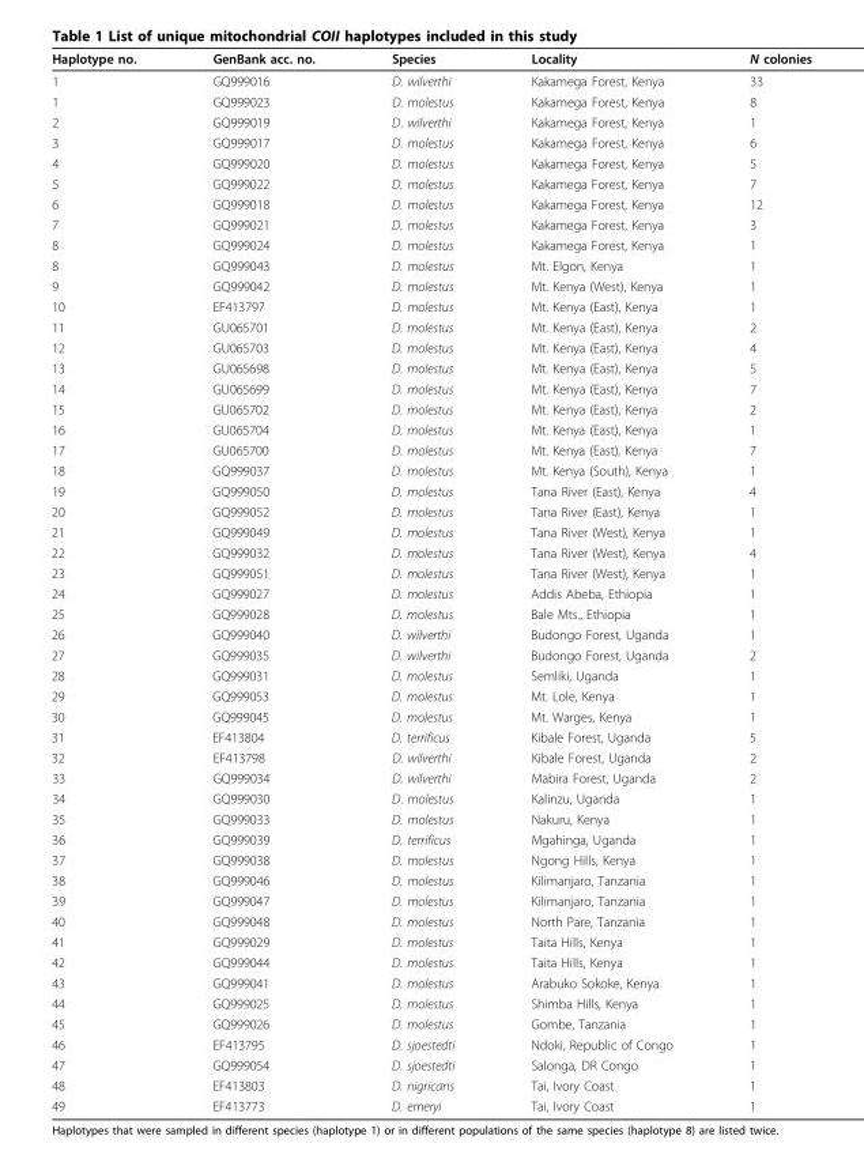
<table><thead><tr><td>Haplotype no.</td><td>GenBank acc. no.</td><td>Species</td><td>Locality</td><td>N colonies</td></tr></thead><tbody><tr><td>1</td><td>GQ999016</td><td>D. wilverthi</td><td>Kakamega Forest, Kenya</td><td>33</td></tr><tr><td>1</td><td>GQ999023</td><td>D. molestus</td><td>Kakamega Forest, Kenya</td><td>8</td></tr><tr><td>2</td><td>GQ999019</td><td>D. wilverthi</td><td>Kakamega Forest, Kenya</td><td>1</td></tr><tr><td>3</td><td>GQ999017</td><td>D. molestus</td><td>Kakamega Forest, Kenya</td><td>6</td></tr><tr><td>4</td><td>GQ999020</td><td>D. molestus</td><td>Kakamega Forest, Kenya</td><td>5</td></tr><tr><td>5</td><td>GQ999022</td><td>D. molestus</td><td>Kakamega Forest, Kenya</td><td>7</td></tr><tr><td>6</td><td>GQ999018</td><td>D. molestus</td><td>Kakamega Forest, Kenya</td><td>12</td></tr><tr><td>7</td><td>GQ999021</td><td>D. molestus</td><td>Kakamega Forest, Kenya</td><td>3</td></tr><tr><td>8</td><td>GQ999024</td><td>D. molestus</td><td>Kakamega Forest, Kenya</td><td>1</td></tr><tr><td>8</td><td>GQ999043</td><td>D. molestus</td><td>Mt. Elgon, Kenya</td><td>1</td></tr><tr><td>9</td><td>GQ999042</td><td>D. molestus</td><td>Mt. Kenya (West), Kenya</td><td>1</td></tr><tr><td>10</td><td>EF413797</td><td>D. molestus</td><td>Mt. Kenya (East), Kenya</td><td>1</td></tr><tr><td>11</td><td>GU065701</td><td>D. molestus</td><td>Mt. Kenya (East), Kenya</td><td>2</td></tr><tr><td>12</td><td>GU065703</td><td>D. molestus</td><td>Mt. Kenya (East), Kenya</td><td>4</td></tr><tr><td>13</td><td>GU065698</td><td>D. molestus</td><td>Mt. Kenya (East), Kenya</td><td>5</td></tr><tr><td>14</td><td>GU065699</td><td>D. molestus</td><td>Mt. Kenya (East), Kenya</td><td>7</td></tr><tr><td>15</td><td>GU065702</td><td>D. molestus</td><td>Mt. Kenya (East), Kenya</td><td>2</td></tr><tr><td>16</td><td>GU065704</td><td>D. molestus</td><td>Mt. Kenya (East), Kenya</td><td>1</td></tr><tr><td>17</td><td>GU065700</td><td>D. molestus</td><td>Mt. Kenya (East), Kenya</td><td>7</td></tr><tr><td>18</td><td>GQ999037</td><td>D. molestus</td><td>Mt. Kenya (South), Kenya</td><td>1</td></tr><tr><td>19</td><td>GQ999050</td><td>D. molestus</td><td>Tana River (East), Kenya</td><td>4</td></tr><tr><td>20</td><td>GQ999052</td><td>D. molestus</td><td>Tana River (East), Kenya</td><td>1</td></tr><tr><td>21</td><td>GQ999049</td><td>D. molestus</td><td>Tana River (West), Kenya</td><td>1</td></tr><tr><td>22</td><td>GQ999032</td><td>D. molestus</td><td>Tana River (West), Kenya</td><td>4</td></tr><tr><td>23</td><td>GQ999051</td><td>D. molestus</td><td>Tana River (West), Kenya</td><td>1</td></tr><tr><td>24</td><td>GQ999027</td><td>D. molestus</td><td>Addis Abeba, Ethiopia</td><td>1</td></tr><tr><td>25</td><td>GQ999028</td><td>D. molestus</td><td>Bale Mts., Ethiopia</td><td>1</td></tr><tr><td>26</td><td>GQ999040</td><td>D. wilverthi</td><td>Budongo Forest, Uganda</td><td>1</td></tr><tr><td>27</td><td>GQ999035</td><td>D. wilverthi</td><td>Budongo Forest, Uganda</td><td>2</td></tr><tr><td>28</td><td>GQ999031</td><td>D. molestus</td><td>Semliki, Uganda</td><td>1</td></tr><tr><td>29</td><td>GQ999053</td><td>D. molestus</td><td>Mt. Lole, Kenya</td><td>1</td></tr><tr><td>30</td><td>GQ999045</td><td>D. molestus</td><td>Mt. Warges, Kenya</td><td>1</td></tr><tr><td>31</td><td>EF413804</td><td>D. terrificus</td><td>Kibale Forest, Uganda</td><td>5</td></tr><tr><td>32</td><td>EF413798</td><td>D. wilverthi</td><td>Kibale Forest, Uganda</td><td>2</td></tr><tr><td>33</td><td>GQ999034</td><td>D. wilverthi</td><td>Mabira Forest, Uganda</td><td>2</td></tr><tr><td>34</td><td>GQ999030</td><td>D. molestus</td><td>Kalinzu, Uganda</td><td>1</td></tr><tr><td>35</td><td>GQ999033</td><td>D. molestus</td><td>Nakuru, Kenya</td><td>1</td></tr><tr><td>36</td><td>GQ999039</td><td>D. terrificus</td><td>Mgahinga, Uganda</td><td>1</td></tr><tr><td>37</td><td>GQ999038</td><td>D. molestus</td><td>Ngong Hills, Kenya</td><td>1</td></tr><tr><td>38</td><td>GQ999046</td><td>D. molestus</td><td>Kilimanjaro, Tanzania</td><td>1</td></tr><tr><td>39</td><td>GQ999047</td><td>D. molestus</td><td>Kilimanjaro, Tanzania</td><td>1</td></tr><tr><td>40</td><td>GQ999048</td><td>D. molestus</td><td>North Pare, Tanzania</td><td>1</td></tr><tr><td>41</td><td>GQ999029</td><td>D. molestus</td><td>Taita Hills, Kenya</td><td>1</td></tr><tr><td>42</td><td>GQ999044</td><td>D. molestus</td><td>Taita Hills, Kenya</td><td>1</td></tr><tr><td>43</td><td>GQ999041</td><td>D. molestus</td><td>Arabuko Sokoke, Kenya</td><td>1</td></tr><tr><td>44</td><td>GQ999025</td><td>D. molestus</td><td>Shimba Hills, Kenya</td><td>1</td></tr><tr><td>45</td><td>GQ999026</td><td>D. molestus</td><td>Gombe, Tanzania</td><td>1</td></tr><tr><td>46</td><td>EF413795</td><td>D. sjoestedti</td><td>Ndoki, Republic of Congo</td><td>1</td></tr><tr><td>47</td><td>GQ999054</td><td>D. sjoestedti</td><td>Salonga, DR Congo</td><td>1</td></tr><tr><td>48</td><td>EF413803</td><td>D. nigricans</td><td>Tai, Ivory Coast</td><td>1</td></tr><tr><td>49</td><td>EF413773</td><td>D. emeryi</td><td>Tai, Ivory Coast</td><td>1</td></tr></tbody></table>